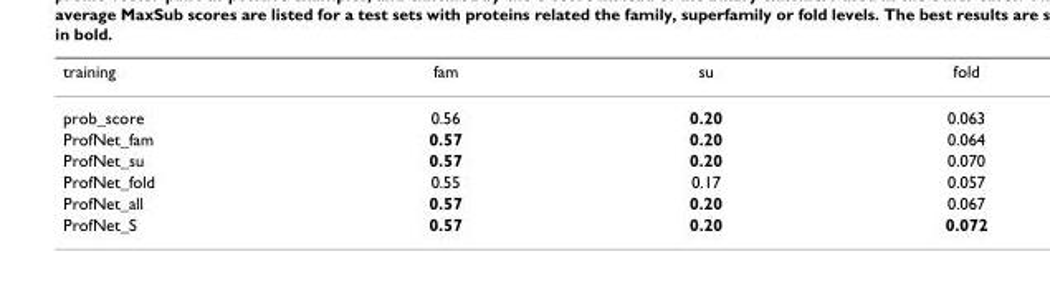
<table><thead><tr><td>training</td><td>fam</td><td>su</td><td>fold</td></tr></thead><tbody><tr><td>prob_score</td><td>0.56</td><td>0.20</td><td>0.063</td></tr><tr><td>ProfNet_fam</td><td>0.57</td><td>0.20</td><td>0.064</td></tr><tr><td>ProfNet_su</td><td>0.57</td><td>0.20</td><td>0.070</td></tr><tr><td>ProfNet_fold</td><td>0.55</td><td>0.17</td><td>0.057</td></tr><tr><td>ProfNet_all</td><td>0.57</td><td>0.20</td><td>0.067</td></tr><tr><td>ProfNet_S</td><td>0.57</td><td>0.20</td><td>0.072</td></tr></tbody></table>